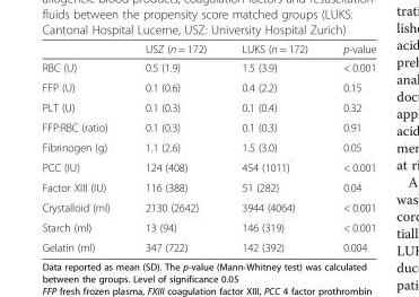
<table><thead><tr><td></td><td>USZ (n = 172)</td><td>LUKS (n = 172)</td><td>p-value</td></tr></thead><tbody><tr><td>RBC (U)</td><td>0.5 (1.9)</td><td>1.5 (3.9)</td><td>&lt; 0.001</td></tr><tr><td>FFP (U)</td><td>0.1 (0.6)</td><td>0.4 (2.2)</td><td>0.15</td></tr><tr><td>PLT (U)</td><td>0.1 (0.3)</td><td>0.1 (0.4)</td><td>0.32</td></tr><tr><td>FFP:RBC (ratio)</td><td>0.1 (0.3)</td><td>0.1 (0.3)</td><td>0.91</td></tr><tr><td>Fibrinogen (g)</td><td>1.1 (2.6)</td><td>1.5 (3.0)</td><td>0.05</td></tr><tr><td>PCC (IU)</td><td>124 (408)</td><td>454 (1011)</td><td>&lt; 0.001</td></tr><tr><td>Factor XIII (IU)</td><td>116 (388)</td><td>51 (282)</td><td>0.04</td></tr><tr><td>Crystalloid (ml)</td><td>2130 (2642)</td><td>3944 (4064)</td><td>&lt; 0.001</td></tr><tr><td>Starch (ml)</td><td>13 (94)</td><td>146 (319)</td><td>&lt; 0.001</td></tr><tr><td>Gelatin (ml)</td><td>347 (722)</td><td>142 (392)</td><td>0.004</td></tr></tbody></table>